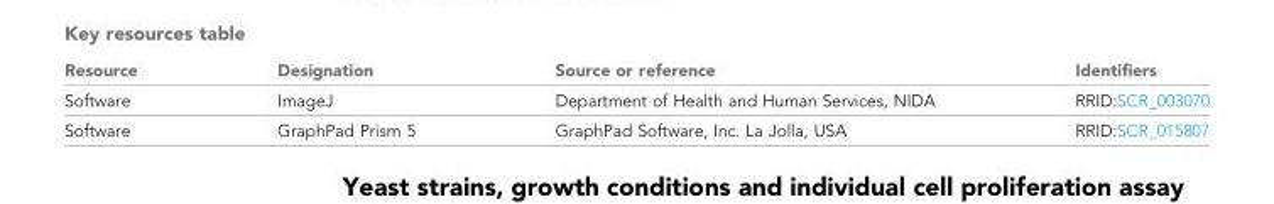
<table><thead><tr><td>Resource</td><td>Designation</td><td>Source or reference</td><td>Identifiers</td></tr></thead><tbody><tr><td>Software</td><td>ImageJ</td><td>Department of Health and Human Services, NIDA</td><td>RRID:SCR_003070</td></tr><tr><td>Software</td><td>GraphPad Prism 5</td><td>GraphPad Software, Inc. La Jolla, USA</td><td>RRID:SCR_015807</td></tr></tbody></table>